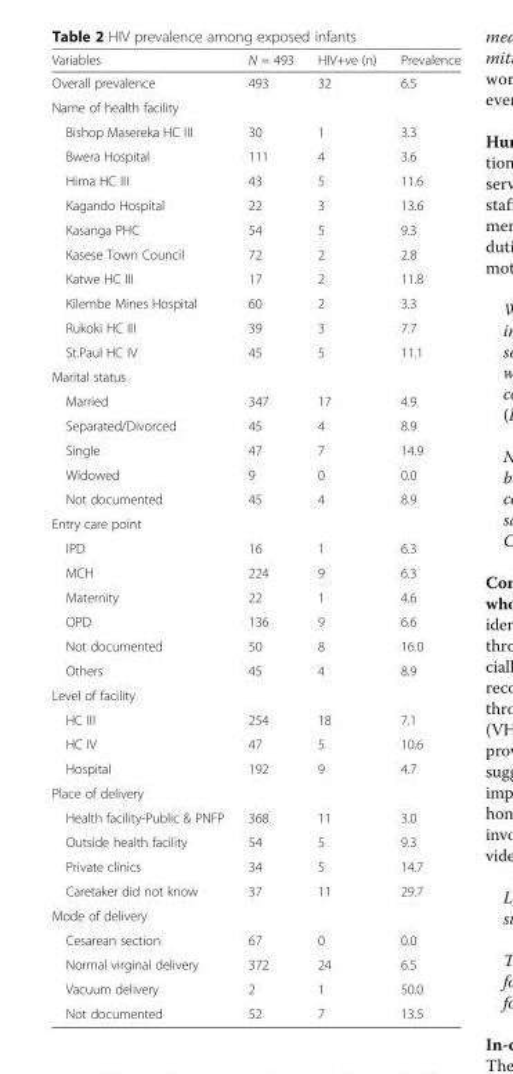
<table><thead><tr><td>Variables</td><td>N = 493</td><td>HIV+ve (n)</td><td>Prevalence</td></tr></thead><tbody><tr><td>Overall prevalence</td><td>493</td><td>32</td><td>6.5</td></tr><tr><td colspan="4">Name of health facility</td></tr><tr><td>Bishop Masereka HC III</td><td>30</td><td>1</td><td>3.3</td></tr><tr><td>Bwera Hospital</td><td>111</td><td>4</td><td>3.6</td></tr><tr><td>Hima HC III</td><td>43</td><td>5</td><td>11.6</td></tr><tr><td>Kagando Hospital</td><td>22</td><td>3</td><td>13.6</td></tr><tr><td>Kasanga PHC</td><td>54</td><td>5</td><td>9.3</td></tr><tr><td>Kasese Town Council</td><td>72</td><td>2</td><td>2.8</td></tr><tr><td>Katwe HC III</td><td>17</td><td>2</td><td>11.8</td></tr><tr><td>Kilembe Mines Hospital</td><td>60</td><td>2</td><td>3.3</td></tr><tr><td>Rukoki HC III</td><td>39</td><td>3</td><td>7.7</td></tr><tr><td>St.Paul HC IV</td><td>45</td><td>5</td><td>11.1</td></tr><tr><td colspan="4">Marital status</td></tr><tr><td>Married</td><td>347</td><td>17</td><td>4.9</td></tr><tr><td>Separated/Divorced</td><td>45</td><td>4</td><td>8.9</td></tr><tr><td>Single</td><td>47</td><td>7</td><td>14.9</td></tr><tr><td>Widowed</td><td>9</td><td>0</td><td>0.0</td></tr><tr><td>Not documented</td><td>45</td><td>4</td><td>8.9</td></tr><tr><td colspan="4">Entry care point</td></tr><tr><td>IPD</td><td>16</td><td>1</td><td>6.3</td></tr><tr><td>MCH</td><td>224</td><td>9</td><td>6.3</td></tr><tr><td>Maternity</td><td>22</td><td>1</td><td>4.6</td></tr><tr><td>OPD</td><td>136</td><td>9</td><td>6.6</td></tr><tr><td>Not documented</td><td>50</td><td>8</td><td>16.0</td></tr><tr><td>Others</td><td>45</td><td>4</td><td>8.9</td></tr><tr><td colspan="4">Level of facility</td></tr><tr><td>HC III</td><td>254</td><td>18</td><td>7.1</td></tr><tr><td>HC IV</td><td>47</td><td>5</td><td>10.6</td></tr><tr><td>Hospital</td><td>192</td><td>9</td><td>4.7</td></tr><tr><td colspan="4">Place of delivery</td></tr><tr><td>Health facility-Public &amp; PNFP</td><td>368</td><td>11</td><td>3.0</td></tr><tr><td>Outside health facility</td><td>54</td><td>5</td><td>9.3</td></tr><tr><td>Private clinics</td><td>34</td><td>5</td><td>14.7</td></tr><tr><td>Caretaker did not know</td><td>37</td><td>11</td><td>29.7</td></tr><tr><td colspan="4">Mode of delivery</td></tr><tr><td>Cesarean section</td><td>67</td><td>0</td><td>0.0</td></tr><tr><td>Normal virginal delivery</td><td>372</td><td>24</td><td>6.5</td></tr><tr><td>Vacuum delivery</td><td>2</td><td>1</td><td>50.0</td></tr><tr><td>Not documented</td><td>52</td><td>7</td><td>13.5</td></tr></tbody></table>